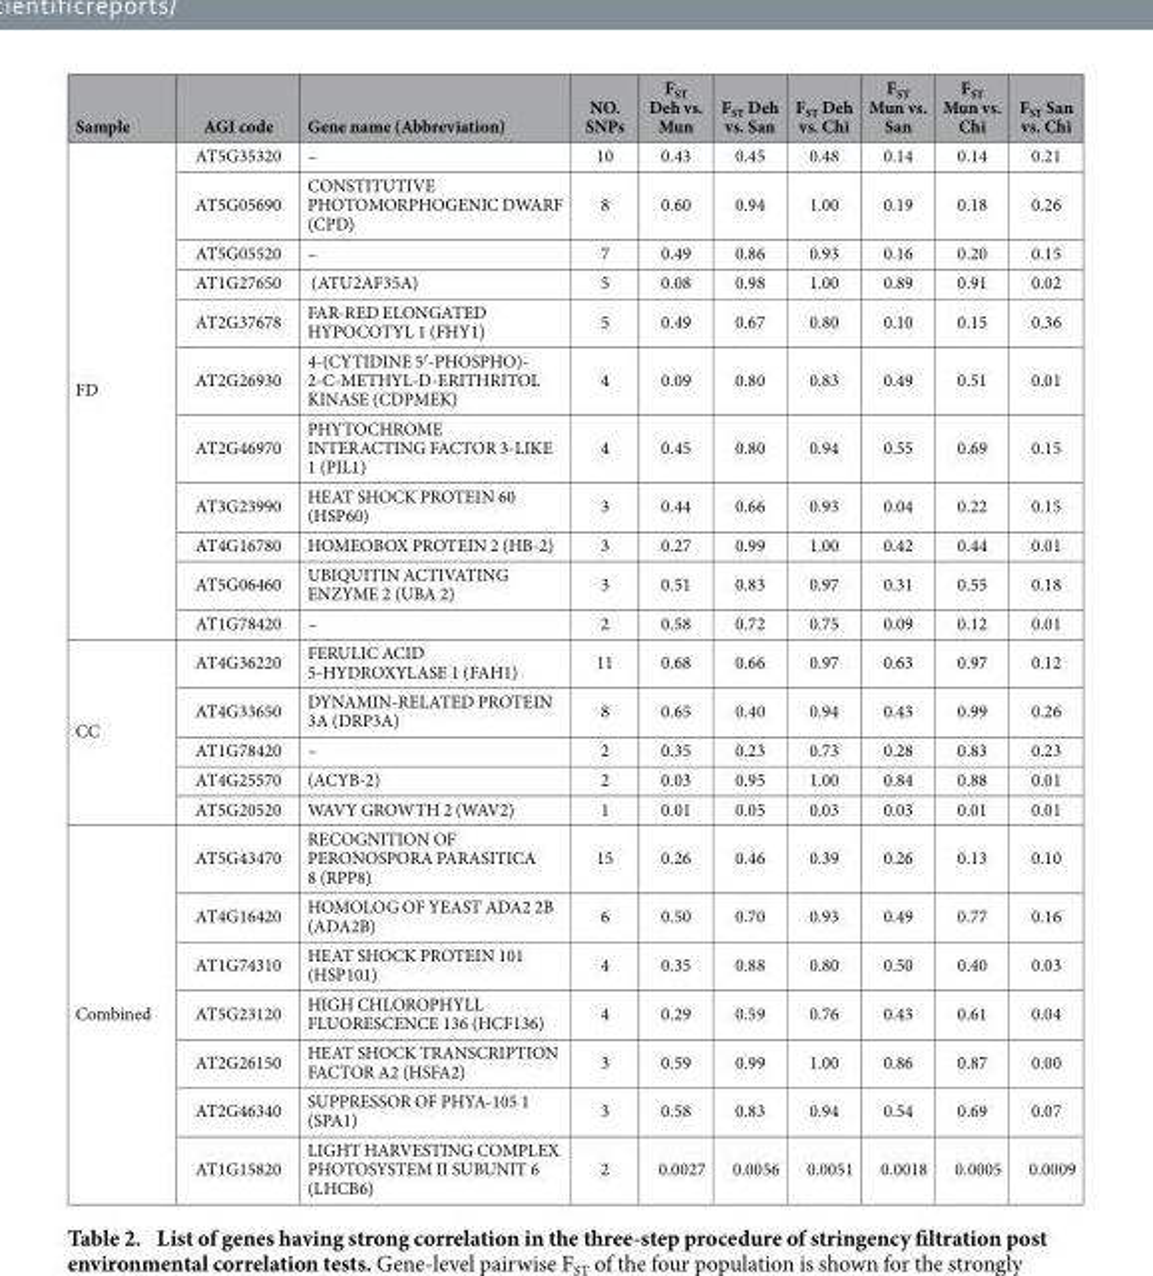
<table><thead><tr><td>Sample</td><td>AGI code</td><td>Gene name (Abbreviation)</td><td>NO. SNPs</td><td>F<sub>ST</sub> Deh vs. Mun</td><td>F<sub>ST</sub> Deh vs. San</td><td>F<sub>ST</sub> Deh vs. Chi</td><td>F<sub>ST</sub> Mun vs. San</td><td>F<sub>ST</sub> Mun vs. Chi</td><td>F<sub>ST</sub> San vs. Chi</td></tr></thead><tbody><tr><td rowspan="11">FD</td><td>AT5G35320</td><td>–</td><td>10</td><td>0.43</td><td>0.45</td><td>0.48</td><td>0.14</td><td>0.14</td><td>0.21</td></tr><tr><td>AT5G05690</td><td>CONSTITUTIVE PHOTOMORPHOGENIC DWARF (CPD)</td><td>8</td><td>0.60</td><td>0.94</td><td>1.00</td><td>0.19</td><td>0.18</td><td>0.26</td></tr><tr><td>AT5G05520</td><td>–</td><td>7</td><td>0.49</td><td>0.86</td><td>0.93</td><td>0.16</td><td>0.20</td><td>0.15</td></tr><tr><td>AT1G27650</td><td>(ATU2AF35A)</td><td>5</td><td>0.08</td><td>0.98</td><td>1.00</td><td>0.89</td><td>0.91</td><td>0.02</td></tr><tr><td>AT2G37678</td><td>FAR-RED ELONGATED HYPOCOTYL 1 (FHY1)</td><td>5</td><td>0.49</td><td>0.67</td><td>0.80</td><td>0.10</td><td>0.15</td><td>0.36</td></tr><tr><td>AT2G26930</td><td>4-(CYTIDINE 5′ -PHOSPHO)- 2-C-METHYL-D-ERITHRITOL KINASE (CDPMEK)</td><td>4</td><td>0.09</td><td>0.80</td><td>0.83</td><td>0.49</td><td>0.51</td><td>0.01</td></tr><tr><td>AT2G46970</td><td>PHYTOCHROME INTERACTING FACTOR 3-LIKE 1 (PIL1)</td><td>4</td><td>0.45</td><td>0.80</td><td>0.94</td><td>0.55</td><td>0.69</td><td>0.15</td></tr><tr><td>AT3G23990</td><td>HEAT SHOCK PROTEIN 60 (HSP60)</td><td>3</td><td>0.44</td><td>0.66</td><td>0.93</td><td>0.04</td><td>0.22</td><td>0.15</td></tr><tr><td>AT4G16780</td><td>HOMEOBOX PROTEIN 2 (HB-2)</td><td>3</td><td>0.27</td><td>0.99</td><td>1.00</td><td>0.42</td><td>0.44</td><td>0.01</td></tr><tr><td>AT5G06460</td><td>UBIQUITIN ACTIVATING ENZYME 2 (UBA 2)</td><td>3</td><td>0.51</td><td>0.83</td><td>0.97</td><td>0.31</td><td>0.55</td><td>0.18</td></tr><tr><td>AT1G78420</td><td>–</td><td>2</td><td>0.58</td><td>0.72</td><td>0.75</td><td>0.09</td><td>0.12</td><td>0.01</td></tr><tr><td rowspan="5">CC</td><td>AT4G36220</td><td>FERULIC ACID 5-HYDROXYLASE 1 (FAH1)</td><td>11</td><td>0.68</td><td>0.66</td><td>0.97</td><td>0.63</td><td>0.97</td><td>0.12</td></tr><tr><td>AT4G33650</td><td>DYNAMIN-RELATED PROTEIN 3A (DRP3A)</td><td>8</td><td>0.65</td><td>0.40</td><td>0.94</td><td>0.43</td><td>0.99</td><td>0.26</td></tr><tr><td>AT1G78420</td><td>–</td><td>2</td><td>0.35</td><td>0.23</td><td>0.73</td><td>0.28</td><td>0.83</td><td>0.23</td></tr><tr><td>AT4G25570</td><td>(ACYB-2)</td><td>2</td><td>0.03</td><td>0.95</td><td>1.00</td><td>0.84</td><td>0.88</td><td>0.01</td></tr><tr><td>AT5G20520</td><td>WAVY GROWTH 2 (WAV2)</td><td>1</td><td>0.01</td><td>0.05</td><td>0.03</td><td>0.03</td><td>0.01</td><td>0.01</td></tr><tr><td rowspan="7">Combined</td><td>AT5G43470</td><td>RECOGNITION OF PERONOSPORA PARASITICA 8 (RPP8)</td><td>15</td><td>0.26</td><td>0.46</td><td>0.39</td><td>0.26</td><td>0.13</td><td>0.10</td></tr><tr><td>AT4G16420</td><td>HOMOLOG OF YEAST ADA2 2B (ADA2B)</td><td>6</td><td>0.50</td><td>0.70</td><td>0.93</td><td>0.49</td><td>0.77</td><td>0.16</td></tr><tr><td>AT1G74310</td><td>HEAT SHOCK PROTEIN 101 (HSP101)</td><td>4</td><td>0.35</td><td>0.88</td><td>0.80</td><td>0.50</td><td>0.40</td><td>0.03</td></tr><tr><td>AT5G23120</td><td>HIGH CHLOROPHYLL FLUORESCENCE 136 (HCF136)</td><td>4</td><td>0.29</td><td>0.59</td><td>0.76</td><td>0.43</td><td>0.61</td><td>0.04</td></tr><tr><td>AT2G26150</td><td>HEAT SHOCK TRANSCRIPTION FACTOR A2 (HSFA2)</td><td>3</td><td>0.59</td><td>0.99</td><td>1.00</td><td>0.86</td><td>0.87</td><td>0.00</td></tr><tr><td>AT2G46340</td><td>SUPPRESSOR OF PHYA-105 1 (SPA1)</td><td>3</td><td>0.58</td><td>0.83</td><td>0.94</td><td>0.54</td><td>0.69</td><td>0.07</td></tr><tr><td>AT1G15820</td><td>LIGHT HARVESTING COMPLEX PHOTOSYSTEM II SUBUNIT 6 (LHCB6)</td><td>2</td><td>0.0027</td><td>0.0056</td><td>0.0051</td><td>0.0018</td><td>0.0005</td><td>0.0009</td></tr></tbody></table>